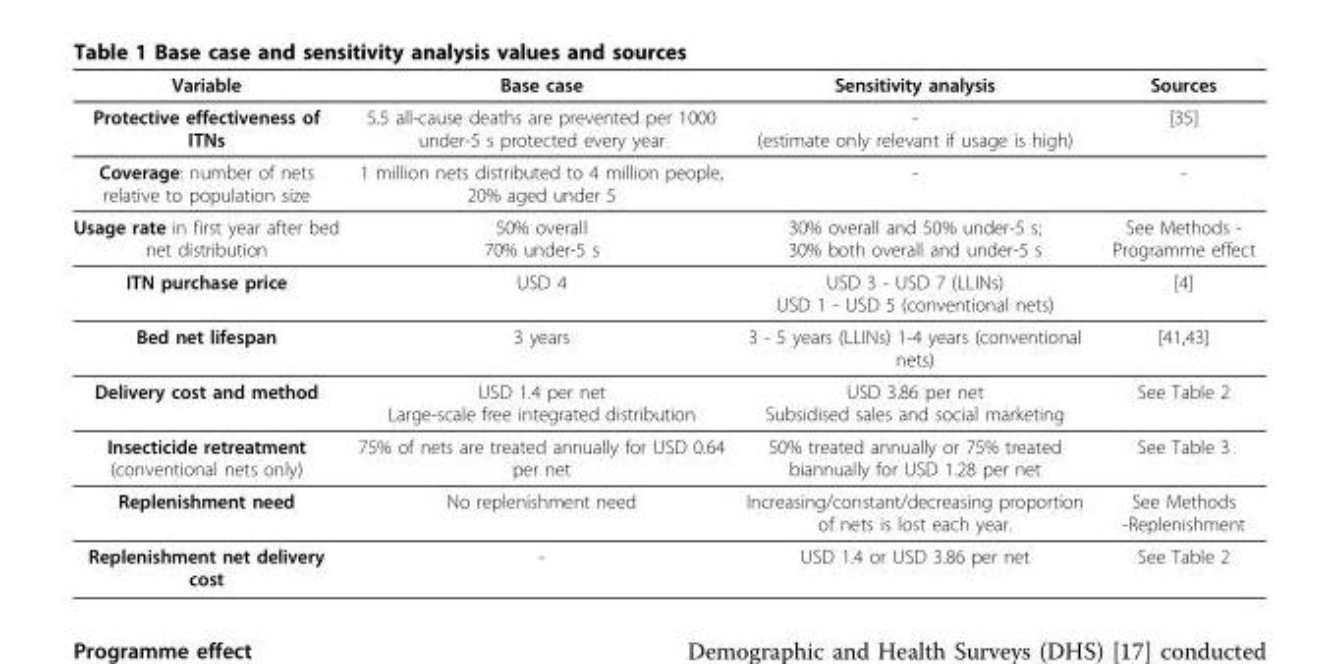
<table><thead><tr><td>Variable</td><td>Base case</td><td>Sensitivity analysis</td><td>Sources</td></tr></thead><tbody><tr><td>Protective effectiveness of ITNs</td><td>5.5 all-cause deaths are prevented per 1000 under-5 s protected every year</td><td>- (estimate only relevant if usage is high)</td><td>[35]</td></tr><tr><td>Coverage: number of nets relative to population size</td><td>1 million nets distributed to 4 million people, 20% aged under 5</td><td>-</td><td>-</td></tr><tr><td>Usage rate in first year after bed net distribution</td><td>50% overall 70% under-5 s</td><td>30% overall and 50% under-5 s; 30% both overall and under-5 s</td><td>See Methods - Programme effect</td></tr><tr><td>ITN purchase price</td><td>USD 4</td><td>USD 3 - USD 7 (LLINs) USD 1 - USD 5 (conventional nets)</td><td>[4]</td></tr><tr><td>Bed net lifespan</td><td>3 years</td><td>3 - 5 years (LLINs) 1-4 years (conventional nets)</td><td>[41,43]</td></tr><tr><td>Delivery cost and method</td><td>USD 1.4 per net Large-scale free integrated distribution</td><td>USD 3.86 per net Subsidised sales and social marketing</td><td>See Table 2</td></tr><tr><td>Insecticide retreatment (conventional nets only)</td><td>75% of nets are treated annually for USD 0.64 per net</td><td>50% treated annually or 75% treated biannually for USD 1.28 per net</td><td>See Table 3</td></tr><tr><td>Replenishment need</td><td>No replenishment need</td><td>Increasing/constant/decreasing proportion of nets is lost each year.</td><td>See Methods -Replenishment</td></tr><tr><td>Replenishment net delivery cost</td><td>-</td><td>USD 1.4 or USD 3.86 per net</td><td>See Table 2</td></tr></tbody></table>